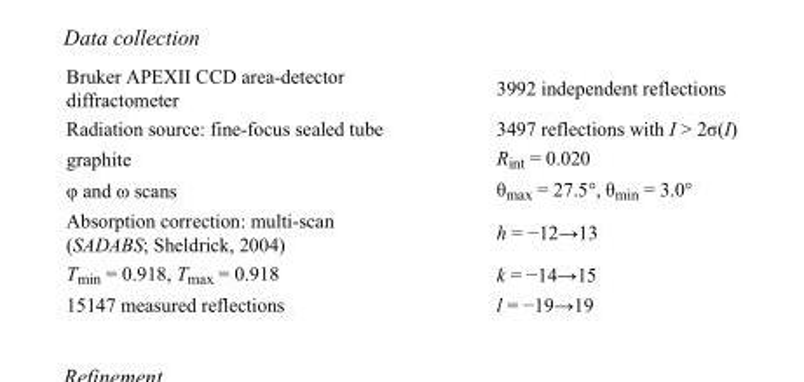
<table><tbody><tr><td>Bruker APEXII CCD area-detector diffractometer</td><td>3992 independent reflections</td></tr><tr><td>Radiation source: fine-focus sealed tube</td><td>3497 reflections with I &gt; 2σ(I)</td></tr><tr><td>graphite</td><td>R<sub>int</sub> = 0.020</td></tr><tr><td>φ and ω scans</td><td>θ<sub>max</sub> = 27.5°, θ<sub>min</sub> = 3.0°</td></tr><tr><td>Absorption correction: multi-scan (SADABS; Sheldrick, 2004)</td><td>h = −12→13</td></tr><tr><td>T<sub>min</sub> = 0.918, T<sub>max</sub> = 0.918</td><td>k = −14→15</td></tr><tr><td>15147 measured reflections</td><td>l = −19→19</td></tr></tbody></table>